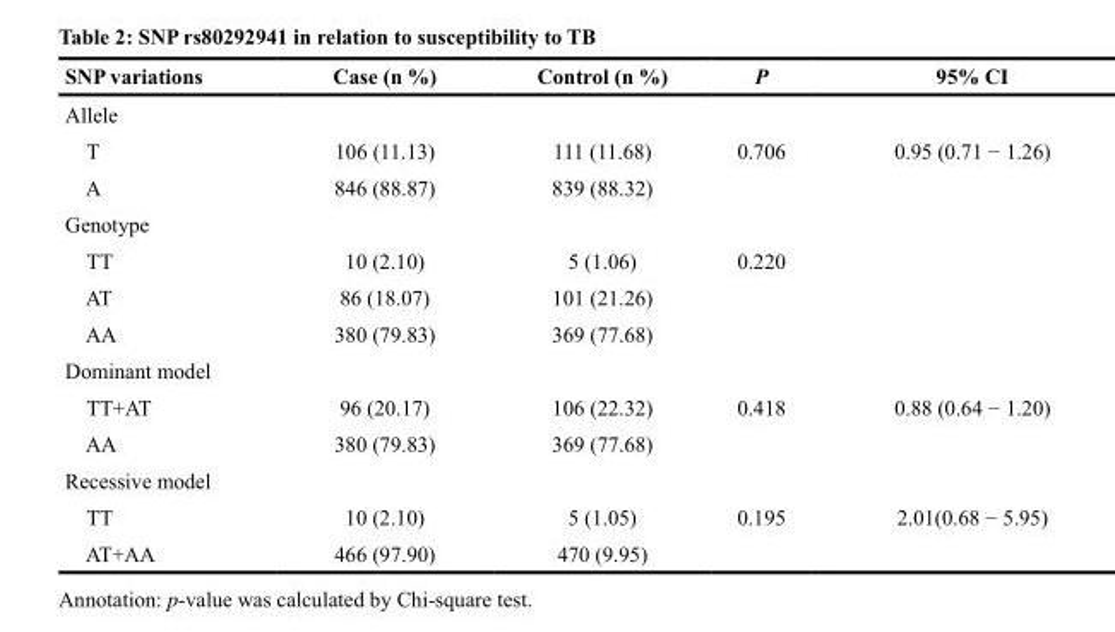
<table><thead><tr><td>SNP variations</td><td>Case (n %)</td><td>Control (n %)</td><td>P</td><td>95% CI</td></tr></thead><tbody><tr><td colspan="5">Allele</td></tr><tr><td>T</td><td>106 (11.13)</td><td>111 (11.68)</td><td>0.706</td><td>0.95 (0.71 − 1.26)</td></tr><tr><td>A</td><td>846 (88.87)</td><td>839 (88.32)</td><td></td><td></td></tr><tr><td colspan="5">Genotype</td></tr><tr><td>TT</td><td>10 (2.10)</td><td>5 (1.06)</td><td>0.220</td><td></td></tr><tr><td>AT</td><td>86 (18.07)</td><td>101 (21.26)</td><td></td><td></td></tr><tr><td>AA</td><td>380 (79.83)</td><td>369 (77.68)</td><td></td><td></td></tr><tr><td colspan="5">Dominant model</td></tr><tr><td>TT+AT</td><td>96 (20.17)</td><td>106 (22.32)</td><td>0.418</td><td>0.88 (0.64 − 1.20)</td></tr><tr><td>AA</td><td>380 (79.83)</td><td>369 (77.68)</td><td></td><td></td></tr><tr><td colspan="5">Recessive model</td></tr><tr><td>TT</td><td>10 (2.10)</td><td>5 (1.05)</td><td>0.195</td><td>2.01(0.68 − 5.95)</td></tr><tr><td>AT+AA</td><td>466 (97.90)</td><td>470 (9.95)</td><td></td><td></td></tr></tbody></table>